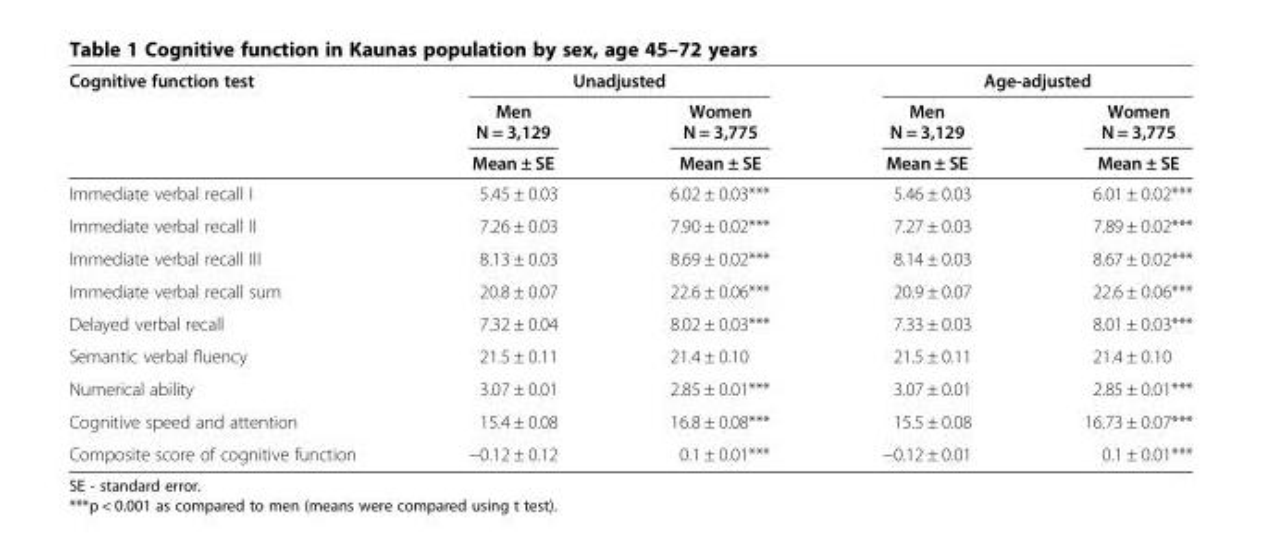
<table><thead><tr><td rowspan="3">Cognitive function test</td><td colspan="2">Unadjusted</td><td colspan="2">Age-adjusted</td></tr><tr><td rowspan="2">Men N = 3,129 Mean ± SE</td><td rowspan="2">Women N = 3,775 Mean ± SE</td><td rowspan="2">Men N = 3,129 Mean ± SE</td><td rowspan="2">Women N = 3,775 Mean ± SE</td></tr><tr></tr></thead><tbody><tr><td>Immediate verbal recall I</td><td>5.45 ± 0.03</td><td>6.02 ± 0.03***</td><td>5.46 ± 0.03</td><td>6.01 ± 0.02***</td></tr><tr><td>Immediate verbal recall II</td><td>7.26 ± 0.03</td><td>7.90 ± 0.02***</td><td>7.27 ± 0.03</td><td>7.89 ± 0.02***</td></tr><tr><td>Immediate verbal recall III</td><td>8.13 ± 0.03</td><td>8.69 ± 0.02***</td><td>8.14 ± 0.03</td><td>8.67 ± 0.02***</td></tr><tr><td>Immediate verbal recall sum</td><td>20.8 ± 0.07</td><td>22.6 ± 0.06***</td><td>20.9 ± 0.07</td><td>22.6 ± 0.06***</td></tr><tr><td>Delayed verbal recall</td><td>7.32 ± 0.04</td><td>8.02 ± 0.03***</td><td>7.33 ± 0.03</td><td>8.01 ± 0.03***</td></tr><tr><td>Semantic verbal fluency</td><td>21.5 ± 0.11</td><td>21.4 ± 0.10</td><td>21.5 ± 0.11</td><td>21.4 ± 0.10</td></tr><tr><td>Numerical ability</td><td>3.07 ± 0.01</td><td>2.85 ± 0.01***</td><td>3.07 ± 0.01</td><td>2.85 ± 0.01***</td></tr><tr><td>Cognitive speed and attention</td><td>15.4 ± 0.08</td><td>16.8 ± 0.08***</td><td>15.5 ± 0.08</td><td>16.73 ± 0.07***</td></tr><tr><td>Composite score of cognitive function</td><td>−0.12 ± 0.12</td><td>0.1 ± 0.01***</td><td>−0.12 ± 0.01</td><td>0.1 ± 0.01***</td></tr></tbody></table>